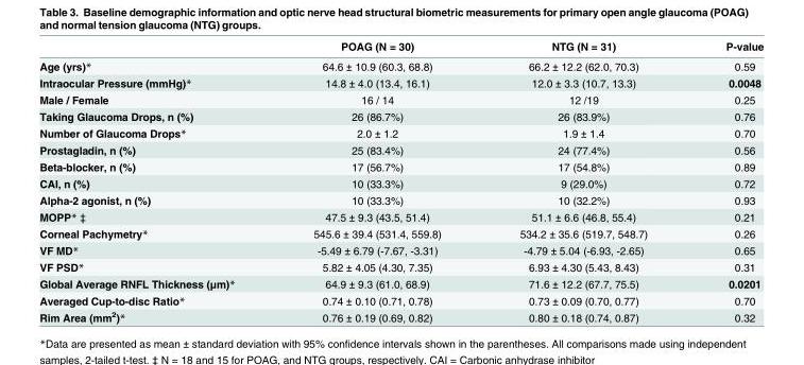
<table><thead><tr><td></td><td>POAG (N = 30)</td><td>NTG (N = 31)</td><td>P-value</td></tr></thead><tbody><tr><td>Age (yrs)*</td><td>64.6 ± 10.9 (60.3, 68.8)</td><td>66.2 ± 12.2 (62.0, 70.3)</td><td>0.59</td></tr><tr><td>Intraocular Pressure (mmHg)*</td><td>14.8 ± 4.0 (13.4, 16.1)</td><td>12.0 ± 3.3 (10.7, 13.3)</td><td>0.0048</td></tr><tr><td>Male / Female</td><td>16 / 14</td><td>12 /19</td><td>0.25</td></tr><tr><td>Taking Glaucoma Drops, n (%)</td><td>26 (86.7%)</td><td>26 (83.9%)</td><td>0.76</td></tr><tr><td>Number of Glaucoma Drops*</td><td>2.0 ± 1.2</td><td>1.9 ± 1.4</td><td>0.70</td></tr><tr><td>Prostagladin, n (%)</td><td>25 (83.4%)</td><td>24 (77.4%)</td><td>0.56</td></tr><tr><td>Beta-blocker, n (%)</td><td>17 (56.7%)</td><td>17 (54.8%)</td><td>0.89</td></tr><tr><td>CAI, n (%)</td><td>10 (33.3%)</td><td>9 (29.0%)</td><td>0.72</td></tr><tr><td>Alpha-2 agonist, n (%)</td><td>10 (33.3%)</td><td>10 (32.2%)</td><td>0.93</td></tr><tr><td>MOPP* ‡</td><td>47.5 ± 9.3 (43.5, 51.4)</td><td>51.1 ± 6.6 (46.8, 55.4)</td><td>0.21</td></tr><tr><td>Corneal Pachymetry*</td><td>545.6 ± 39.4 (531.4, 559.8)</td><td>534.2 ± 35.6 (519.7, 548.7)</td><td>0.26</td></tr><tr><td>VF MD*</td><td>-5.49 ± 6.79 (-7.67, -3.31)</td><td>-4.79 ± 5.04 (-6.93, -2.65)</td><td>0.65</td></tr><tr><td>VF PSD*</td><td>5.82 ± 4.05 (4.30, 7.35)</td><td>6.93 ± 4.30 (5.43, 8.43)</td><td>0.31</td></tr><tr><td>Global Average RNFL Thickness (μm)*</td><td>64.9 ± 9.3 (61.0, 68.9)</td><td>71.6 ± 12.2 (67.7, 75.5)</td><td>0.0201</td></tr><tr><td>Averaged Cup-to-disc Ratio*</td><td>0.74 ± 0.10 (0.71, 0.78)</td><td>0.73 ± 0.09 (0.70, 0.77)</td><td>0.70</td></tr><tr><td>Rim Area (mm<sup>2</sup>)*</td><td>0.76 ± 0.19 (0.69, 0.82)</td><td>0.80 ± 0.18 (0.74, 0.87)</td><td>0.32</td></tr></tbody></table>